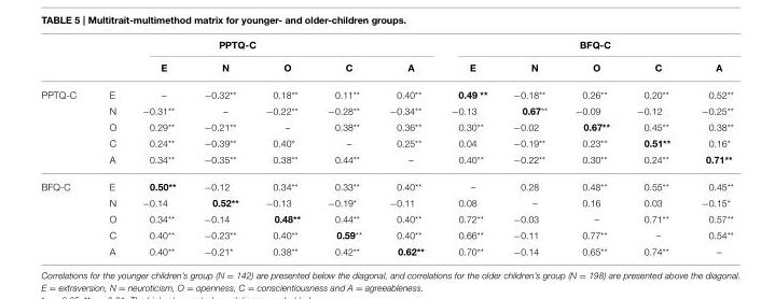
<table><thead><tr><td colspan="7">PPTQ-C</td><td colspan="5">BFQ-C</td></tr><tr><td></td><td></td><td>E</td><td>N</td><td>O</td><td>C</td><td>A</td><td>E</td><td>N</td><td>O</td><td>C</td><td>A</td></tr></thead><tbody><tr><td rowspan="5">PPTQ-C</td><td>E</td><td>–</td><td>−0.32**</td><td>0.18**</td><td>0.11**</td><td>0.40**</td><td>0.49 **</td><td>−0.18**</td><td>0.26**</td><td>0.20**</td><td>0.52**</td></tr><tr><td>N</td><td>−0.31**</td><td>–</td><td>−0.22**</td><td>−0.28**</td><td>−0.34**</td><td>−0.13</td><td>0.67**</td><td>−0.09</td><td>−0.12</td><td>−0.25**</td></tr><tr><td>O</td><td>0.29**</td><td>−0.21**</td><td>–</td><td>0.38**</td><td>0.36**</td><td>0.30**</td><td>−0.02</td><td>0.67**</td><td>0.45**</td><td>0.38**</td></tr><tr><td>C</td><td>0.24**</td><td>−0.39**</td><td>0.40*</td><td>–</td><td>0.25**</td><td>0.04</td><td>−0.19**</td><td>0.23**</td><td>0.51**</td><td>0.16*</td></tr><tr><td>A</td><td>0.34**</td><td>−0.35**</td><td>0.38**</td><td>0.44**</td><td>–</td><td>0.40**</td><td>−0.22**</td><td>0.30**</td><td>0.24**</td><td>0.71**</td></tr><tr><td rowspan="5">BFQ-C</td><td>E</td><td>0.50**</td><td>−0.12</td><td>0.34**</td><td>0.33**</td><td>0.40**</td><td>–</td><td>0.28</td><td>0.48**</td><td>0.55**</td><td>0.45**</td></tr><tr><td>N</td><td>−0.14</td><td>0.52**</td><td>−0.13</td><td>−0.19*</td><td>−0.11</td><td>0.08</td><td>–</td><td>0.16</td><td>0.03</td><td>−0.15*</td></tr><tr><td>O</td><td>0.34**</td><td>−0.14</td><td>0.48**</td><td>0.44**</td><td>0.40**</td><td>0.72**</td><td>−0.03</td><td>–</td><td>0.71**</td><td>0.57**</td></tr><tr><td>C</td><td>0.40**</td><td>−0.23**</td><td>0.40**</td><td>0.59**</td><td>0.40**</td><td>0.66**</td><td>−0.11</td><td>0.77**</td><td>–</td><td>0.54**</td></tr><tr><td>A</td><td>0.40**</td><td>−0.21*</td><td>0.38**</td><td>0.42**</td><td>0.62**</td><td>0.70**</td><td>−0.14</td><td>0.65**</td><td>0.74**</td><td>–</td></tr></tbody></table>